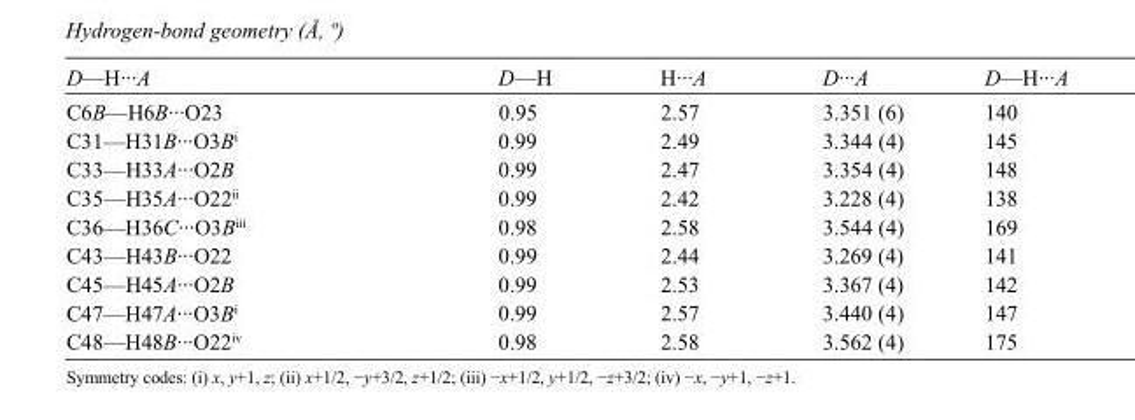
<table><tbody><tr><td>D—H···A</td><td>D—H</td><td>H···A</td><td>D···A</td><td>D—H···A</td></tr><tr><td>C6B—H6B···O23</td><td>0.95</td><td>2.57</td><td>3.351 (6)</td><td>140</td></tr><tr><td>C31—H31B···O3B<sup>i</sup></td><td>0.99</td><td>2.49</td><td>3.344 (4)</td><td>145</td></tr><tr><td>C33—H33A···O2B</td><td>0.99</td><td>2.47</td><td>3.354 (4)</td><td>148</td></tr><tr><td>C35—H35A···O22<sup>ii</sup></td><td>0.99</td><td>2.42</td><td>3.228 (4)</td><td>138</td></tr><tr><td>C36—H36C···O3B<sup>iii</sup></td><td>0.98</td><td>2.58</td><td>3.544 (4)</td><td>169</td></tr><tr><td>C43—H43B···O22</td><td>0.99</td><td>2.44</td><td>3.269 (4)</td><td>141</td></tr><tr><td>C45—H45A···O2B</td><td>0.99</td><td>2.53</td><td>3.367 (4)</td><td>142</td></tr><tr><td>C47—H47A···O3B<sup>i</sup></td><td>0.99</td><td>2.57</td><td>3.440 (4)</td><td>147</td></tr><tr><td>C48—H48B···O22<sup>iv</sup></td><td>0.98</td><td>2.58</td><td>3.562 (4)</td><td>175</td></tr></tbody></table>